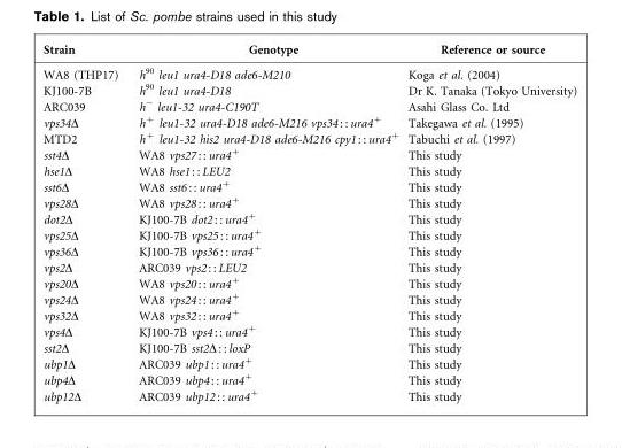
<table><thead><tr><td>Strain</td><td>Genotype</td><td>Reference or source</td></tr></thead><tbody><tr><td>WA8 (THP17)</td><td>h<sup>90</sup> leu1 ura4-D18 ade6-M210</td><td>Koga et al. (2004)</td></tr><tr><td>KJ100-7B</td><td>h<sup>90</sup> leu1 ura4-D18</td><td>Dr K. Tanaka (Tokyo University)</td></tr><tr><td>ARC039</td><td>h<sup>−</sup> leu1-32 ura4-C190T</td><td>Asahi Glass Co. Ltd</td></tr><tr><td>vps34Δ</td><td>h<sup>+</sup> leu1-32 ura4-D18 ade6-M216 vps34 : : ura4<sup>+</sup></td><td>Takegawa et al. (1995)</td></tr><tr><td>MTD2</td><td>h<sup>+</sup> leu1-32 his2 ura4-D18 ade6-M216 cpy1 : : ura4<sup>+</sup></td><td>Tabuchi et al. (1997)</td></tr><tr><td>sst4Δ</td><td>WA8 vps27 : : ura4<sup>+</sup></td><td>This study</td></tr><tr><td>hse1Δ</td><td>WA8 hse1 : : LEU2</td><td>This study</td></tr><tr><td>sst6Δ</td><td>WA8 sst6 : : ura4<sup>+</sup></td><td>This study</td></tr><tr><td>vps28Δ</td><td>WA8 vps28 : : ura4<sup>+</sup></td><td>This study</td></tr><tr><td>dot2Δ</td><td>KJ100-7B dot2 : : ura4<sup>+</sup></td><td>This study</td></tr><tr><td>vps25Δ</td><td>KJ100-7B vps25 : : ura4<sup>+</sup></td><td>This study</td></tr><tr><td>vps36Δ</td><td>KJ100-7B vps36 : : ura4<sup>+</sup></td><td>This study</td></tr><tr><td>vps2Δ</td><td>ARC039 vps2 : : LEU2</td><td>This study</td></tr><tr><td>vps20Δ</td><td>WA8 vps20 : : ura4<sup>+</sup></td><td>This study</td></tr><tr><td>vps24Δ</td><td>WA8 vps24 : : ura4<sup>+</sup></td><td>This study</td></tr><tr><td>vps32Δ</td><td>WA8 vps32 : : ura4<sup>+</sup></td><td>This study</td></tr><tr><td>vps4Δ</td><td>KJ100-7B vps4 : : ura4<sup>+</sup></td><td>This study</td></tr><tr><td>sst2Δ</td><td>KJ100-7B sst2Δ : : loxP</td><td>This study</td></tr><tr><td>ubp1Δ</td><td>ARC039 ubp1 : : ura4<sup>+</sup></td><td>This study</td></tr><tr><td>ubp4Δ</td><td>ARC039 ubp4 : : ura4<sup>+</sup></td><td>This study</td></tr><tr><td>ubp12Δ</td><td>ARC039 ubp12 : : ura4<sup>+</sup></td><td>This study</td></tr></tbody></table>